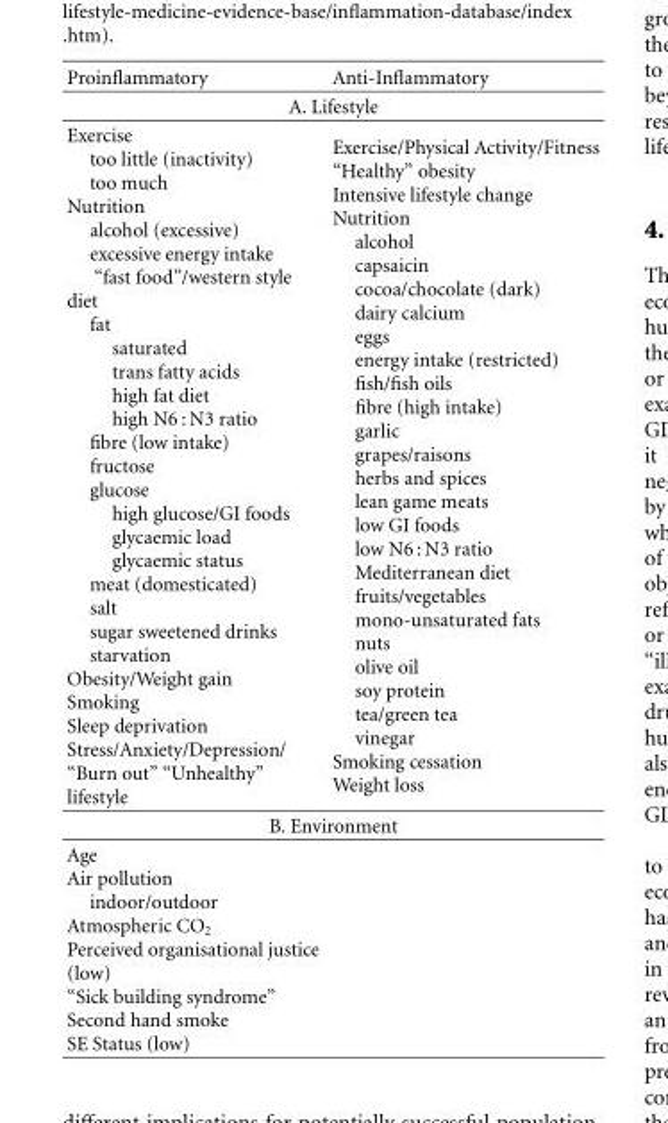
<table><thead><tr><td>Proinflammatory</td><td>Anti-Inflammatory</td></tr></thead><tbody><tr><td colspan="2">A. Lifestyle</td></tr><tr><td>Exercise too little (inactivity) too much Nutrition alcohol (excessive) excessive energy intake “fast food”/western style diet fat saturated trans fatty acids high fat diet high N6 : N3 ratio fibre (low intake) fructose glucose high glucose/GI foods glycaemic load glycaemic status meat (domesticated) salt sugar sweetened drinks starvation Obesity/Weight gain Smoking Sleep deprivation Stress/Anxiety/Depression/ “Burn out” “Unhealthy” lifestyle</td><td>Exercise/Physical Activity/Fitness “Healthy” obesity Intensive lifestyle change Nutrition alcohol capsaicin cocoa/chocolate (dark) dairy calcium eggs energy intake (restricted) fish/fish oils fibre (high intake) garlic grapes/raisons herbs and spices lean game meats low GI foods low N6 : N3 ratio Mediterranean diet fruits/vegetables mono-unsaturated fats nuts olive oil soy protein tea/green tea vinegar Smoking cessation Weight loss</td></tr><tr><td colspan="2">B. Environment</td></tr><tr><td>Age Air pollution indoor/outdoor Atmospheric CO<sub>2</sub> Perceived organisational justice (low) “Sick building syndrome” Second hand smoke SE Status (low)</td><td></td></tr></tbody></table>